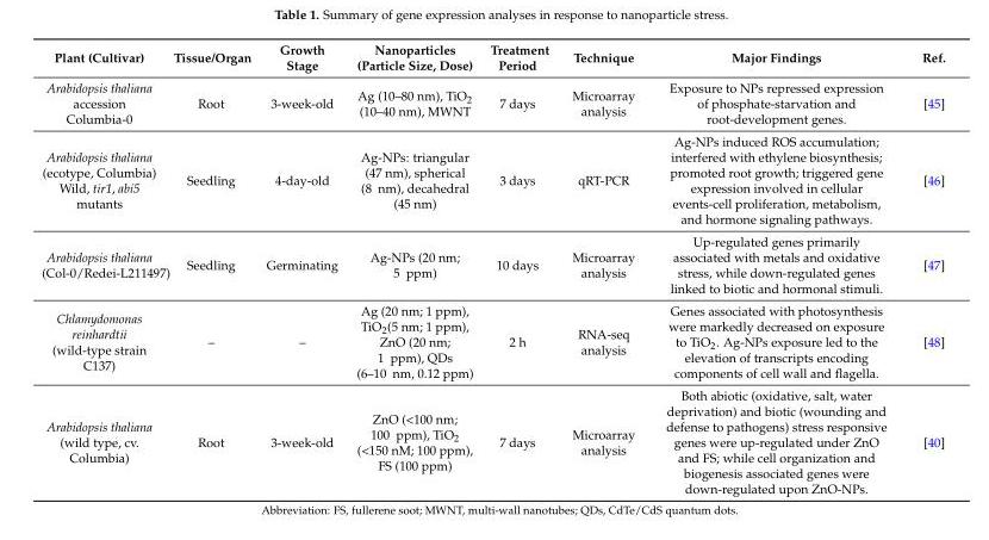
<table><thead><tr><td>Plant (Cultivar)</td><td>Tissue/Organ</td><td>Growth Stage</td><td>Nanoparticles (Particle Size, Dose)</td><td>Treatment Period</td><td>Technique</td><td>Major Findings</td><td>Ref.</td></tr></thead><tbody><tr><td>Arabidopsis thaliana accession Columbia-0</td><td>Root</td><td>3-week-old</td><td>Ag (10–80 nm), TiO<sub>2</sub> (10–40 nm), MWNT</td><td>7 days</td><td>Microarray analysis</td><td>Exposure to NPs repressed expression of phosphate-starvation and root-development genes.</td><td>[45]</td></tr><tr><td>Arabidopsis thaliana (ecotype, Columbia) Wild, tir1, abi5 mutants</td><td>Seedling</td><td>4-day-old</td><td>Ag-NPs: triangular (47 nm), spherical (8 nm), decahedral (45 nm)</td><td>3 days</td><td>qRT-PCR</td><td>Ag-NPs induced ROS accumulation; interfered with ethylene biosynthesis; promoted root growth; triggered gene expression involved in cellular events-cell proliferation, metabolism, and hormone signaling pathways.</td><td>[46]</td></tr><tr><td>Arabidopsis thaliana (Col-0/Redei-L211497)</td><td>Seedling</td><td>Germinating</td><td>Ag-NPs (20 nm; 5 ppm)</td><td>10 days</td><td>Microarray analysis</td><td>Up-regulated genes primarily associated with metals and oxidative stress, while down-regulated genes linked to biotic and hormonal stimuli.</td><td>[47]</td></tr><tr><td>Chlamydomonas reinhardtii (wild-type strain C137)</td><td>–</td><td>–</td><td>Ag (20 nm; 1 ppm), TiO<sub>2</sub>(5 nm; 1 ppm), ZnO (20 nm; 1 ppm), QDs (6–10 nm, 0.12 ppm)</td><td>2 h</td><td>RNA-seq analysis</td><td>Genes associated with photosynthesis were markedly decreased on exposure to TiO<sub>2</sub>. Ag-NPs exposure led to the elevation of transcripts encoding components of cell wall and flagella.</td><td>[48]</td></tr><tr><td>Arabidopsis thaliana (wild type, cv. Columbia)</td><td>Root</td><td>3-week-old</td><td>ZnO (&lt;100 nm; 100 ppm), TiO<sub>2</sub> (&lt;150 nM; 100 ppm), FS (100 ppm)</td><td>7 days</td><td>Microarray analysis</td><td>Both abiotic (oxidative, salt, water deprivation) and biotic (wounding and defense to pathogens) stress responsive genes were up-regulated under ZnO and FS; while cell organization and biogenesis associated genes were down-regulated upon ZnO-NPs.</td><td>[40]</td></tr></tbody></table>